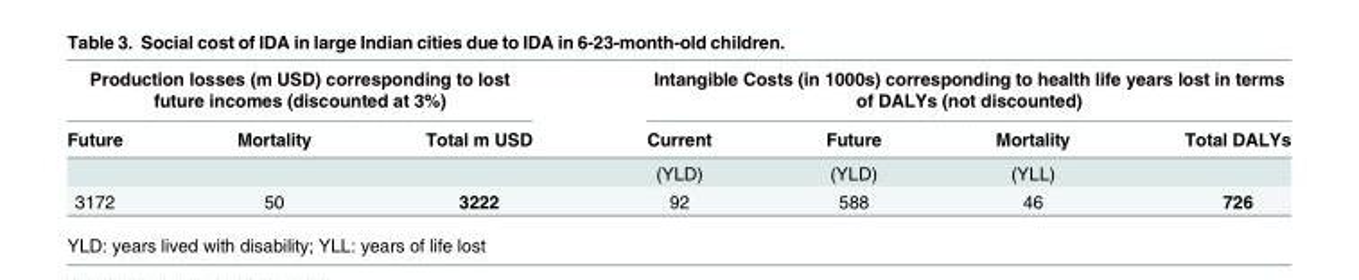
<table><thead><tr><td colspan="3">Production losses (m USD) corresponding to lost future incomes (discounted at 3%)</td><td colspan="4">Intangible Costs (in 1000s) corresponding to health life years lost in terms of DALYs (not discounted)</td></tr><tr><td>Future</td><td>Mortality</td><td>Total m USD</td><td>Current</td><td>Future</td><td>Mortality</td><td>Total DALYs</td></tr></thead><tbody><tr><td></td><td></td><td></td><td>(YLD)</td><td>(YLD)</td><td>(YLL)</td><td></td></tr><tr><td>3172</td><td>50</td><td>3222</td><td>92</td><td>588</td><td>46</td><td>726</td></tr></tbody></table>